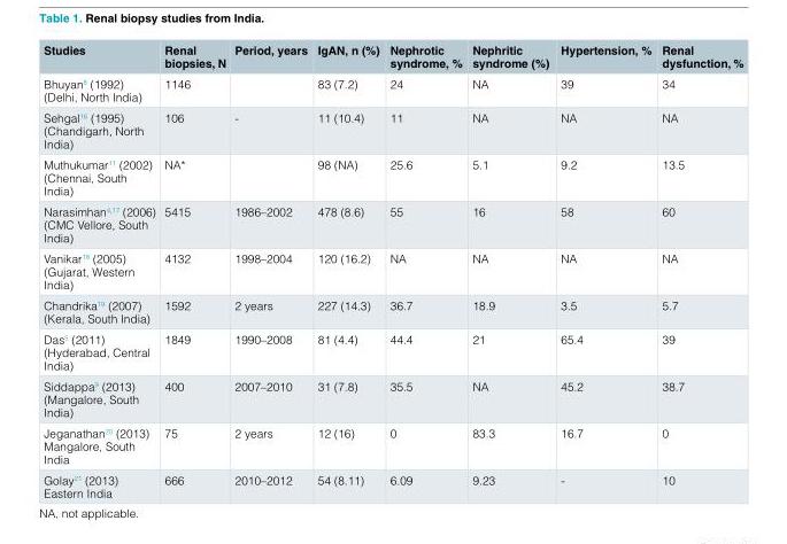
<table><thead><tr><td>Studies</td><td>Renal biopsies, N</td><td>Period, years</td><td>IgAN, n (%)</td><td>Nephrotic syndrome, %</td><td>Nephritic syndrome (%)</td><td>Hypertension, %</td><td>Renal dysfunction, %</td></tr></thead><tbody><tr><td>Bhuyan<sup>8</sup> (1992) (Delhi, North India)</td><td>1146</td><td></td><td>83 (7.2)</td><td>24</td><td>NA</td><td>39</td><td>34</td></tr><tr><td>Sehgal<sup>16</sup> (1995) (Chandigarh, North India)</td><td>106</td><td>-</td><td>11 (10.4)</td><td>11</td><td>NA</td><td>NA</td><td>NA</td></tr><tr><td>Muthukumar<sup>11</sup> (2002) (Chennai, South India)</td><td>NA*</td><td></td><td>98 (NA)</td><td>25.6</td><td>5.1</td><td>9.2</td><td>13.5</td></tr><tr><td>Narasimhan<sup>4,17</sup> (2006) (CMC Vellore, South India)</td><td>5415</td><td>1986–2002</td><td>478 (8.6)</td><td>55</td><td>16</td><td>58</td><td>60</td></tr><tr><td>Vanikar<sup>18</sup> (2005) (Gujarat, Western India)</td><td>4132</td><td>1998–2004</td><td>120 (16.2)</td><td>NA</td><td>NA</td><td>NA</td><td>NA</td></tr><tr><td>Chandrika<sup>19</sup> (2007) (Kerala, South India)</td><td>1592</td><td>2 years</td><td>227 (14.3)</td><td>36.7</td><td>18.9</td><td>3.5</td><td>5.7</td></tr><tr><td>Das<sup>5</sup> (2011) (Hyderabad, Central India)</td><td>1849</td><td>1990–2008</td><td>81 (4.4)</td><td>44.4</td><td>21</td><td>65.4</td><td>39</td></tr><tr><td>Siddappa<sup>9</sup> (2013) (Mangalore, South India)</td><td>400</td><td>2007–2010</td><td>31 (7.8)</td><td>35.5</td><td>NA</td><td>45.2</td><td>38.7</td></tr><tr><td>Jeganathan<sup>20</sup> (2013) Mangalore, South India</td><td>75</td><td>2 years</td><td>12 (16)</td><td>0</td><td>83.3</td><td>16.7</td><td>0</td></tr><tr><td>Golay<sup>21</sup> (2013) Eastern India</td><td>666</td><td>2010–2012</td><td>54 (8.11)</td><td>6.09</td><td>9.23</td><td>-</td><td>10</td></tr></tbody></table>